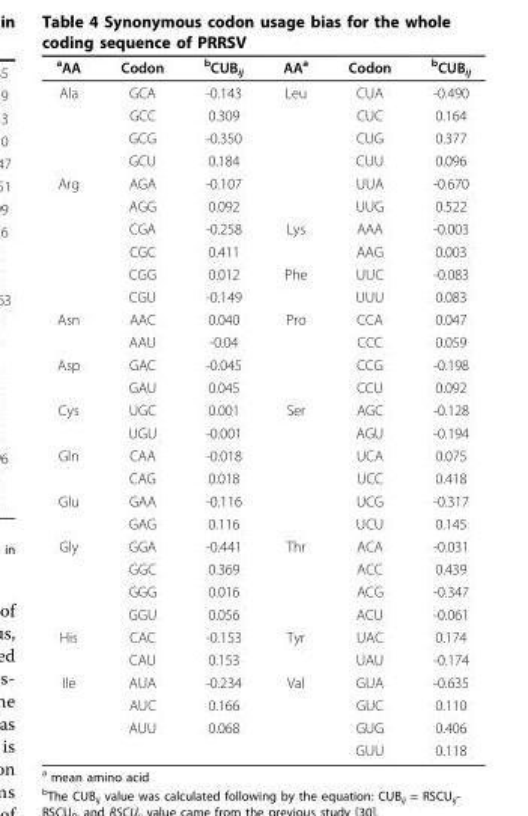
<table><thead><tr><td><sup>a</sup>AA</td><td>Codon</td><td><sup>b</sup>CUB<sub>ij</sub></td><td>AA<sup>a</sup></td><td>Codon</td><td><sup>b</sup>CUB<sub>ij</sub></td></tr></thead><tbody><tr><td rowspan="4">Ala</td><td>GCA</td><td>-0.143</td><td>Leu</td><td>CUA</td><td>-0.490</td></tr><tr><td>GCC</td><td>0.309</td><td></td><td>CUC</td><td>0.164</td></tr><tr><td>GCG</td><td>-0.350</td><td></td><td>CUG</td><td>0.377</td></tr><tr><td>GCU</td><td>0.184</td><td></td><td>CUU</td><td>0.096</td></tr><tr><td rowspan="6">Arg</td><td>AGA</td><td>-0.107</td><td></td><td>UUA</td><td>-0.670</td></tr><tr><td>AGG</td><td>0.092</td><td></td><td>UUG</td><td>0.522</td></tr><tr><td>CGA</td><td>-0.258</td><td>Lys</td><td>AAA</td><td>-0.003</td></tr><tr><td>CGC</td><td>0.411</td><td></td><td>AAG</td><td>0.003</td></tr><tr><td>CGG</td><td>0.012</td><td>Phe</td><td>UUC</td><td>-0.083</td></tr><tr><td>CGU</td><td>-0.149</td><td></td><td>UUU</td><td>0.083</td></tr><tr><td rowspan="2">Asn</td><td>AAC</td><td>0.040</td><td>Pro</td><td>CCA</td><td>0.047</td></tr><tr><td>AAU</td><td>-0.04</td><td></td><td>CCC</td><td>0.059</td></tr><tr><td rowspan="2">Asp</td><td>GAC</td><td>-0.045</td><td></td><td>CCG</td><td>-0.198</td></tr><tr><td>GAU</td><td>0.045</td><td></td><td>CCU</td><td>0.092</td></tr><tr><td rowspan="2">Cys</td><td>UGC</td><td>0.001</td><td>Ser</td><td>AGC</td><td>-0.128</td></tr><tr><td>UGU</td><td>-0.001</td><td></td><td>AGU</td><td>-0.194</td></tr><tr><td rowspan="2">Gln</td><td>CAA</td><td>-0.018</td><td></td><td>UCA</td><td>0.075</td></tr><tr><td>CAG</td><td>0.018</td><td></td><td>UCC</td><td>0.418</td></tr><tr><td rowspan="2">Glu</td><td>GAA</td><td>-0.116</td><td></td><td>UCG</td><td>-0.317</td></tr><tr><td>GAG</td><td>0.116</td><td></td><td>UCU</td><td>0.145</td></tr><tr><td rowspan="4">Gly</td><td>GGA</td><td>-0.441</td><td>Thr</td><td>ACA</td><td>-0.031</td></tr><tr><td>GGC</td><td>0.369</td><td></td><td>ACC</td><td>0.439</td></tr><tr><td>GGG</td><td>0.016</td><td></td><td>ACG</td><td>-0.347</td></tr><tr><td>GGU</td><td>0.056</td><td></td><td>ACU</td><td>-0.061</td></tr><tr><td rowspan="2">His</td><td>CAC</td><td>-0.153</td><td>Tyr</td><td>UAC</td><td>0.174</td></tr><tr><td>CAU</td><td>0.153</td><td></td><td>UAU</td><td>-0.174</td></tr><tr><td rowspan="4">Ile</td><td>AUA</td><td>-0.234</td><td>Val</td><td>GUA</td><td>-0.635</td></tr><tr><td>AUC</td><td>0.166</td><td></td><td>GUC</td><td>0.110</td></tr><tr><td>AUU</td><td>0.068</td><td></td><td>GUG</td><td>0.406</td></tr><tr><td></td><td></td><td></td><td>GUU</td><td>0.118</td></tr></tbody></table>